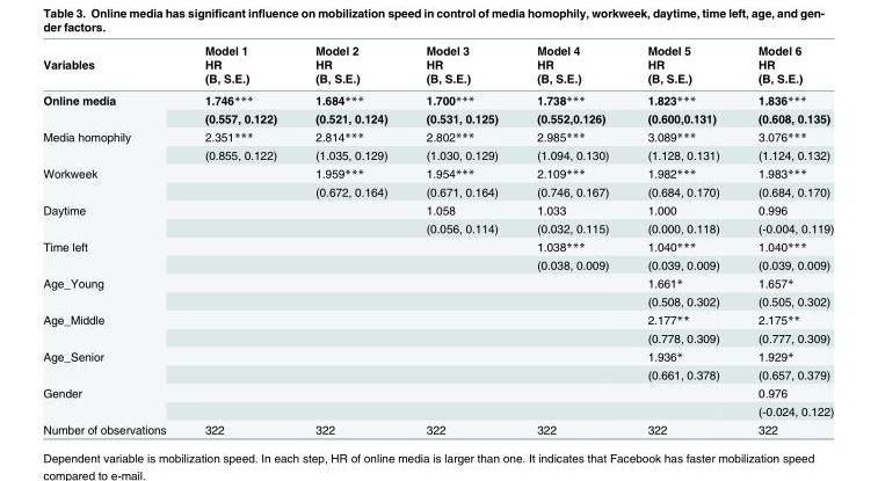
<table><thead><tr><td rowspan="3">Variables</td><td rowspan="3">Model 1 HR (B, S.E.)</td><td rowspan="3">Model 2 HR (B, S.E.)</td><td rowspan="3">Model 3 HR (B, S.E.)</td><td rowspan="3">Model 4 HR (B, S.E.)</td><td rowspan="3">Model 5 HR (B, S.E.)</td><td rowspan="3">Model 6 HR (B, S.E.)</td></tr><tr></tr><tr></tr></thead><tbody><tr><td rowspan="2">Online media</td><td>1.746***</td><td>1.684***</td><td>1.700***</td><td>1.738***</td><td>1.823***</td><td>1.836***</td></tr><tr><td>(0.557, 0.122)</td><td>(0.521, 0.124)</td><td>(0.531, 0.125)</td><td>(0.552,0.126)</td><td>(0.600,0.131)</td><td>(0.608, 0.135)</td></tr><tr><td rowspan="2">Media homophily</td><td>2.351***</td><td>2.814***</td><td>2.802***</td><td>2.985***</td><td>3.089***</td><td>3.076***</td></tr><tr><td>(0.855, 0.122)</td><td>(1.035, 0.129)</td><td>(1.030, 0.129)</td><td>(1.094, 0.130)</td><td>(1.128, 0.131)</td><td>(1.124, 0.132)</td></tr><tr><td rowspan="2">Workweek</td><td></td><td>1.959***</td><td>1.954***</td><td>2.109***</td><td>1.982***</td><td>1.983***</td></tr><tr><td></td><td>(0.672, 0.164)</td><td>(0.671, 0.164)</td><td>(0.746, 0.167)</td><td>(0.684, 0.170)</td><td>(0.684, 0.170)</td></tr><tr><td rowspan="2">Daytime</td><td></td><td></td><td>1.058</td><td>1.033</td><td>1.000</td><td>0.996</td></tr><tr><td></td><td></td><td>(0.056, 0.114)</td><td>(0.032, 0.115)</td><td>(0.000, 0.118)</td><td>(-0.004, 0.119)</td></tr><tr><td rowspan="2">Time left</td><td></td><td></td><td></td><td>1.038***</td><td>1.040***</td><td>1.040***</td></tr><tr><td></td><td></td><td></td><td>(0.038, 0.009)</td><td>(0.039, 0.009)</td><td>(0.039, 0.009)</td></tr><tr><td rowspan="2">Age_Young</td><td></td><td></td><td></td><td></td><td>1.661*</td><td>1.657*</td></tr><tr><td></td><td></td><td></td><td></td><td>(0.508, 0.302)</td><td>(0.505, 0.302)</td></tr><tr><td rowspan="2">Age_Middle</td><td></td><td></td><td></td><td></td><td>2.177**</td><td>2.175**</td></tr><tr><td></td><td></td><td></td><td></td><td>(0.778, 0.309)</td><td>(0.777, 0.309)</td></tr><tr><td rowspan="2">Age_Senior</td><td></td><td></td><td></td><td></td><td>1.936*</td><td>1.929*</td></tr><tr><td></td><td></td><td></td><td></td><td>(0.661, 0.378)</td><td>(0.657, 0.379)</td></tr><tr><td rowspan="2">Gender</td><td></td><td></td><td></td><td></td><td></td><td>0.976</td></tr><tr><td></td><td></td><td></td><td></td><td></td><td>(-0.024, 0.122)</td></tr><tr><td>Number of observations</td><td>322</td><td>322</td><td>322</td><td>322</td><td>322</td><td>322</td></tr></tbody></table>